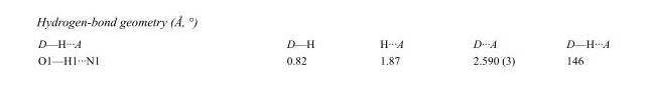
<table><tbody><tr><td>D—H···A</td><td>D—H</td><td>H···A</td><td>D···A</td><td>D—H···A</td></tr><tr><td>O1—H1···N1</td><td>0.82</td><td>1.87</td><td>2.590 (3)</td><td>146</td></tr></tbody></table>